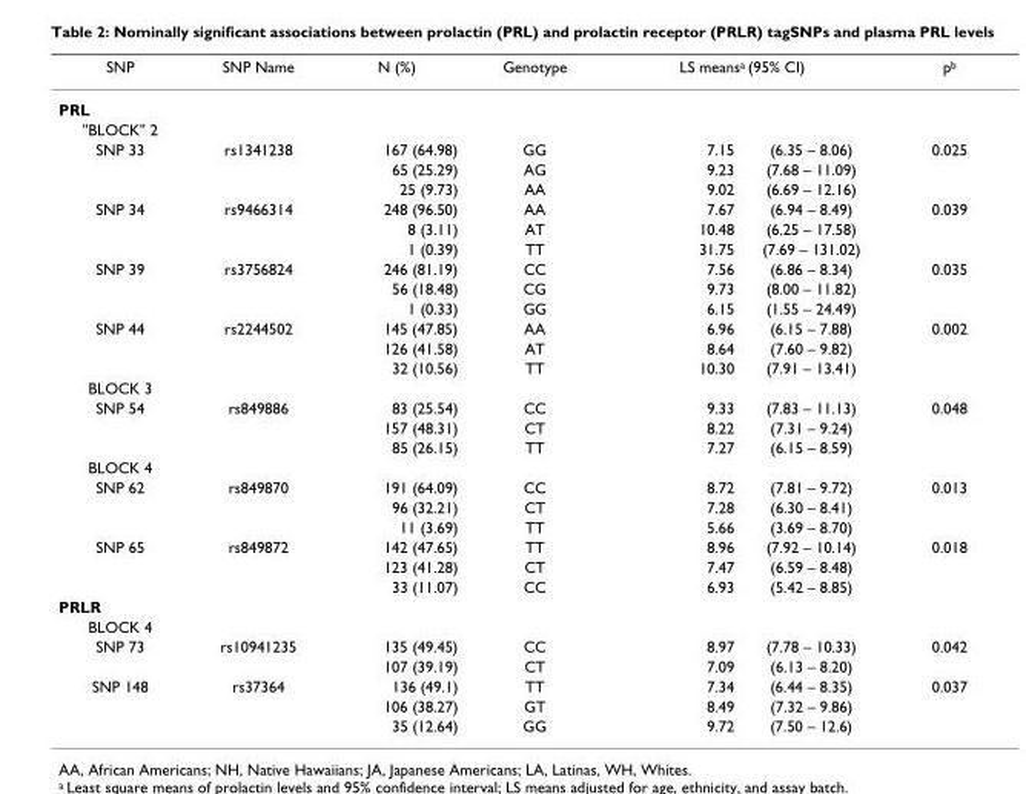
<table><thead><tr><td rowspan="2">SNP PRL</td><td rowspan="2">SNP Name</td><td rowspan="2">N (%)</td><td rowspan="2">Genotype</td><td colspan="2">LS means<sup>a</sup> (95% CI)</td><td rowspan="2">p<sup>b</sup></td></tr><tr><td></td><td></td></tr></thead><tbody><tr><td colspan="7">&quot;BLOCK&quot; 2</td></tr><tr><td rowspan="3">SNP 33</td><td>rs1341238</td><td>167 (64.98)</td><td>GG</td><td>7.15</td><td>(6.35 – 8.06)</td><td>0.025</td></tr><tr><td></td><td>65 (25.29)</td><td>AG</td><td>9.23</td><td>(7.68 – 11.09)</td><td></td></tr><tr><td></td><td>25 (9.73)</td><td>AA</td><td>9.02</td><td>(6.69 – 12.16)</td><td></td></tr><tr><td rowspan="3">SNP 34</td><td>rs9466314</td><td>248 (96.50)</td><td>AA</td><td>7.67</td><td>(6.94 – 8.49)</td><td>0.039</td></tr><tr><td></td><td>8 (3.11)</td><td>AT</td><td>10.48</td><td>(6.25 – 17.58)</td><td></td></tr><tr><td></td><td>1 (0.39)</td><td>TT</td><td>31.75</td><td>(7.69 – 131.02)</td><td></td></tr><tr><td rowspan="3">SNP 39</td><td>rs3756824</td><td>246 (81.19)</td><td>CC</td><td>7.56</td><td>(6.86 – 8.34)</td><td>0.035</td></tr><tr><td></td><td>56 (18.48)</td><td>CG</td><td>9.73</td><td>(8.00 – 11.82)</td><td></td></tr><tr><td></td><td>1 (0.33)</td><td>GG</td><td>6.15</td><td>(1.55 – 24.49)</td><td></td></tr><tr><td rowspan="3">SNP 44</td><td>rs2244502</td><td>145 (47.85)</td><td>AA</td><td>6.96</td><td>(6.15 – 7.88)</td><td>0.002</td></tr><tr><td></td><td>126 (41.58)</td><td>AT</td><td>8.64</td><td>(7.60 – 9.82)</td><td></td></tr><tr><td></td><td>32 (10.56)</td><td>TT</td><td>10.30</td><td>(7.91 – 13.41)</td><td></td></tr><tr><td colspan="7">BLOCK 3</td></tr><tr><td rowspan="3">SNP 54</td><td>rs849886</td><td>83 (25.54)</td><td>CC</td><td>9.33</td><td>(7.83 – 11.13)</td><td>0.048</td></tr><tr><td></td><td>157 (48.31)</td><td>CT</td><td>8.22</td><td>(7.31 – 9.24)</td><td></td></tr><tr><td></td><td>85 (26.15)</td><td>TT</td><td>7.27</td><td>(6.15 – 8.59)</td><td></td></tr><tr><td colspan="7">BLOCK 4</td></tr><tr><td rowspan="3">SNP 62</td><td>rs849870</td><td>191 (64.09)</td><td>CC</td><td>8.72</td><td>(7.81 – 9.72)</td><td>0.013</td></tr><tr><td></td><td>96 (32.21)</td><td>CT</td><td>7.28</td><td>(6.30 – 8.41)</td><td></td></tr><tr><td></td><td>11 (3.69)</td><td>TT</td><td>5.66</td><td>(3.69 – 8.70)</td><td></td></tr><tr><td rowspan="3">SNP 65</td><td>rs849872</td><td>142 (47.65)</td><td>TT</td><td>8.96</td><td>(7.92 – 10.14)</td><td>0.018</td></tr><tr><td></td><td>123 (41.28)</td><td>CT</td><td>7.47</td><td>(6.59 – 8.48)</td><td></td></tr><tr><td></td><td>33 (11.07)</td><td>CC</td><td>6.93</td><td>(5.42 – 8.85)</td><td></td></tr><tr><td colspan="7">PRLR</td></tr><tr><td colspan="7">BLOCK 4</td></tr><tr><td rowspan="2">SNP 73</td><td>rs10941235</td><td>135 (49.45)</td><td>CC</td><td>8.97</td><td>(7.78 – 10.33)</td><td>0.042</td></tr><tr><td></td><td>107 (39.19)</td><td>CT</td><td>7.09</td><td>(6.13 – 8.20)</td><td></td></tr><tr><td rowspan="3">SNP 148</td><td>rs37364</td><td>136 (49.1)</td><td>TT</td><td>7.34</td><td>(6.44 – 8.35)</td><td>0.037</td></tr><tr><td></td><td>106 (38.27)</td><td>GT</td><td>8.49</td><td>(7.32 – 9.86)</td><td></td></tr><tr><td></td><td>35 (12.64)</td><td>GG</td><td>9.72</td><td>(7.50 – 12.6)</td><td></td></tr></tbody></table>